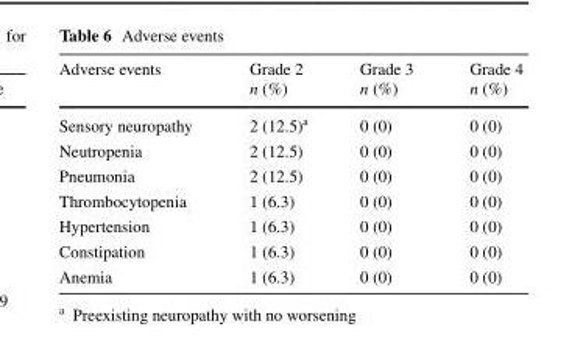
<table><thead><tr><td>Adverse events</td><td>Grade 2 n (%)</td><td>Grade 3 n (%)</td><td>Grade 4 n (%)</td></tr></thead><tbody><tr><td>Sensory neuropathy</td><td>2 (12.5)<sup>a</sup></td><td>0 (0)</td><td>0 (0)</td></tr><tr><td>Neutropenia</td><td>2 (12.5)</td><td>0 (0)</td><td>0 (0)</td></tr><tr><td>Pneumonia</td><td>2 (12.5)</td><td>0 (0)</td><td>0 (0)</td></tr><tr><td>Thrombocytopenia</td><td>1 (6.3)</td><td>0 (0)</td><td>0 (0)</td></tr><tr><td>Hypertension</td><td>1 (6.3)</td><td>0 (0)</td><td>0 (0)</td></tr><tr><td>Constipation</td><td>1 (6.3)</td><td>0 (0)</td><td>0 (0)</td></tr><tr><td>Anemia</td><td>1 (6.3)</td><td>0 (0)</td><td>0 (0)</td></tr></tbody></table>